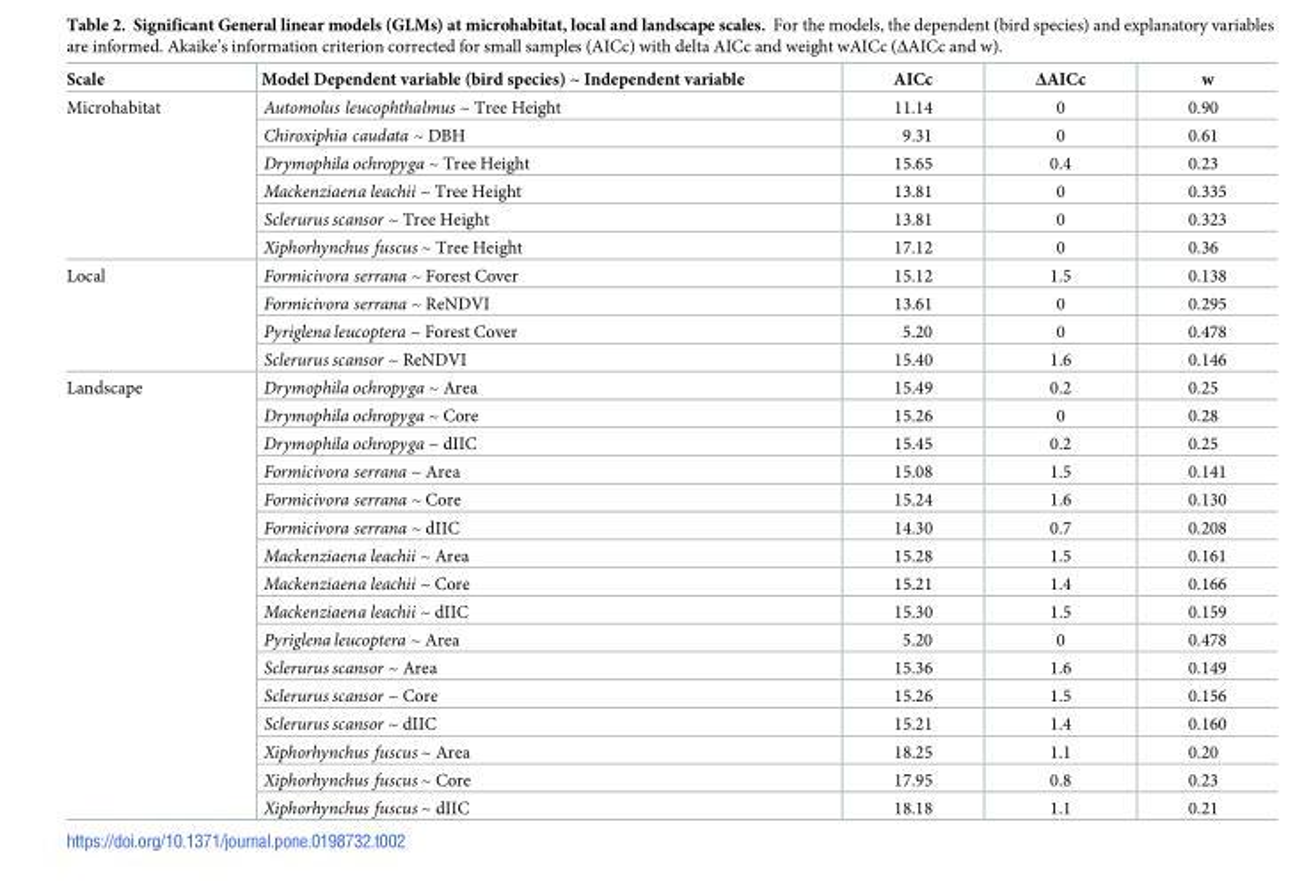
<table><thead><tr><td>Scale</td><td>Model Dependent variable (bird species) ~ Independent variable</td><td>AICc</td><td>ΔAICc</td><td>w</td></tr></thead><tbody><tr><td rowspan="6">Microhabitat</td><td>Automolus leucophthalmus ~ Tree Height</td><td>11.14</td><td>0</td><td>0.90</td></tr><tr><td>Chiroxiphia caudata ~ DBH</td><td>9.31</td><td>0</td><td>0.61</td></tr><tr><td>Drymophila ochropyga ~ Tree Height</td><td>15.65</td><td>0.4</td><td>0.23</td></tr><tr><td>Mackenziaena leachii ~ Tree Height</td><td>13.81</td><td>0</td><td>0.335</td></tr><tr><td>Sclerurus scansor ~ Tree Height</td><td>13.81</td><td>0</td><td>0.323</td></tr><tr><td>Xiphorhynchus fuscus ~ Tree Height</td><td>17.12</td><td>0</td><td>0.36</td></tr><tr><td rowspan="4">Local</td><td>Formicivora serrana ~ Forest Cover</td><td>15.12</td><td>1.5</td><td>0.138</td></tr><tr><td>Formicivora serrana ~ ReNDVI</td><td>13.61</td><td>0</td><td>0.295</td></tr><tr><td>Pyriglena leucoptera ~ Forest Cover</td><td>5.20</td><td>0</td><td>0.478</td></tr><tr><td>Sclerurus scansor ~ ReNDVI</td><td>15.40</td><td>1.6</td><td>0.146</td></tr><tr><td rowspan="16">Landscape</td><td>Drymophila ochropyga ~ Area</td><td>15.49</td><td>0.2</td><td>0.25</td></tr><tr><td>Drymophila ochropyga ~ Core</td><td>15.26</td><td>0</td><td>0.28</td></tr><tr><td>Drymophila ochropyga ~ dIIC</td><td>15.45</td><td>0.2</td><td>0.25</td></tr><tr><td>Formicivora serrana ~ Area</td><td>15.08</td><td>1.5</td><td>0.141</td></tr><tr><td>Formicivora serrana ~ Core</td><td>15.24</td><td>1.6</td><td>0.130</td></tr><tr><td>Formicivora serrana ~ dIIC</td><td>14.30</td><td>0.7</td><td>0.208</td></tr><tr><td>Mackenziaena leachii ~ Area</td><td>15.28</td><td>1.5</td><td>0.161</td></tr><tr><td>Mackenziaena leachii ~ Core</td><td>15.21</td><td>1.4</td><td>0.166</td></tr><tr><td>Mackenziaena leachii ~ dIIC</td><td>15.30</td><td>1.5</td><td>0.159</td></tr><tr><td>Pyriglena leucoptera ~ Area</td><td>5.20</td><td>0</td><td>0.478</td></tr><tr><td>Sclerurus scansor ~ Area</td><td>15.36</td><td>1.6</td><td>0.149</td></tr><tr><td>Sclerurus scansor ~ Core</td><td>15.26</td><td>1.5</td><td>0.156</td></tr><tr><td>Sclerurus scansor ~ dIIC</td><td>15.21</td><td>1.4</td><td>0.160</td></tr><tr><td>Xiphorhynchus fuscus ~ Area</td><td>18.25</td><td>1.1</td><td>0.20</td></tr><tr><td>Xiphorhynchus fuscus ~ Core</td><td>17.95</td><td>0.8</td><td>0.23</td></tr><tr><td>Xiphorhynchus fuscus ~ dIIC</td><td>18.18</td><td>1.1</td><td>0.21</td></tr></tbody></table>